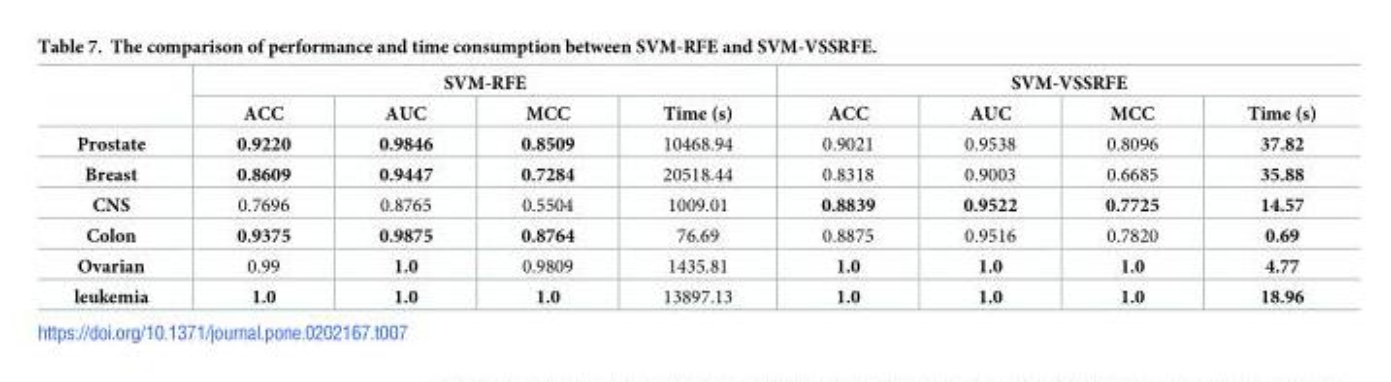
<table><thead><tr><td rowspan="2"></td><td colspan="4">SVM-RFE</td><td colspan="4">SVM-VSSRFE</td></tr><tr><td>ACC</td><td>AUC</td><td>MCC</td><td>Time (s)</td><td>ACC</td><td>AUC</td><td>MCC</td><td>Time (s)</td></tr></thead><tbody><tr><td>Prostate</td><td>0.9220</td><td>0.9846</td><td>0.8509</td><td>10468.94</td><td>0.9021</td><td>0.9538</td><td>0.8096</td><td>37.82</td></tr><tr><td>Breast</td><td>0.8609</td><td>0.9447</td><td>0.7284</td><td>20518.44</td><td>0.8318</td><td>0.9003</td><td>0.6685</td><td>35.88</td></tr><tr><td>CNS</td><td>0.7696</td><td>0.8765</td><td>0.5504</td><td>1009.01</td><td>0.8839</td><td>0.9522</td><td>0.7725</td><td>14.57</td></tr><tr><td>Colon</td><td>0.9375</td><td>0.9875</td><td>0.8764</td><td>76.69</td><td>0.8875</td><td>0.9516</td><td>0.7820</td><td>0.69</td></tr><tr><td>Ovarian</td><td>0.99</td><td>1.0</td><td>0.9809</td><td>1435.81</td><td>1.0</td><td>1.0</td><td>1.0</td><td>4.77</td></tr><tr><td>leukemia</td><td>1.0</td><td>1.0</td><td>1.0</td><td>13897.13</td><td>1.0</td><td>1.0</td><td>1.0</td><td>18.96</td></tr></tbody></table>